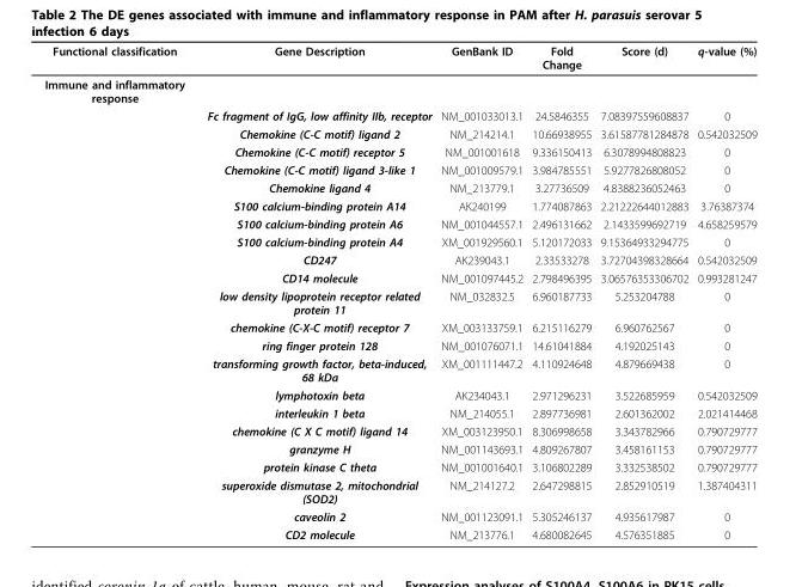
<table><thead><tr><td>Functional classification</td><td>Gene Description</td><td>GenBank ID</td><td>Fold Change</td><td>Score (d)</td><td>q-value (%)</td></tr></thead><tbody><tr><td colspan="6">Immune and inflammatory response</td></tr><tr><td></td><td>Fc fragment of IgG, low affinity IIb, receptor</td><td>NM_001033013.1</td><td>24.5846355</td><td>7.08397559608837</td><td>0</td></tr><tr><td></td><td>Chemokine (C-C motif) ligand 2</td><td>NM_214214.1</td><td>10.66938955</td><td>3.61587781284878</td><td>0.542032509</td></tr><tr><td></td><td>Chemokine (C-C motif) receptor 5</td><td>NM_001001618</td><td>9.336150413</td><td>6.3078994808823</td><td>0</td></tr><tr><td></td><td>Chemokine (C-C motif) ligand 3-like 1</td><td>NM_001009579.1</td><td>3.984785551</td><td>5.9277826808052</td><td>0</td></tr><tr><td></td><td>Chemokine ligand 4</td><td>NM_213779.1</td><td>3.27736509</td><td>4.8388236052463</td><td>0</td></tr><tr><td></td><td>S100 calcium-binding protein A14</td><td>AK240199</td><td>1.774087863</td><td>2.21222644012883</td><td>3.76387374</td></tr><tr><td></td><td>S100 calcium-binding protein A6</td><td>NM_001044557.1</td><td>2.496131662</td><td>2.1433599692719</td><td>4.658259579</td></tr><tr><td></td><td>S100 calcium-binding protein A4</td><td>XM_001929560.1</td><td>5.120172033</td><td>9.15364933294775</td><td>0</td></tr><tr><td></td><td>CD247</td><td>AK239043.1</td><td>2.33533278</td><td>3.72704398328664</td><td>0.542032509</td></tr><tr><td></td><td>CD14 molecule</td><td>NM_001097445.2</td><td>2.798496395</td><td>3.06576353306702</td><td>0.993281247</td></tr><tr><td></td><td>low density lipoprotein receptor related protein 11</td><td>NM_032832.5</td><td>6.960187733</td><td>5.253204788</td><td>0</td></tr><tr><td></td><td>chemokine (C-X-C motif) receptor 7</td><td>XM_003133759.1</td><td>6.215116279</td><td>6.960762567</td><td>0</td></tr><tr><td></td><td>ring finger protein 128</td><td>NM_001076071.1</td><td>14.61041884</td><td>4.192025143</td><td>0</td></tr><tr><td></td><td>transforming growth factor, beta-induced, 68 kDa</td><td>XM_001111447.2</td><td>4.110924648</td><td>4.879669438</td><td>0</td></tr><tr><td></td><td>lymphotoxin beta</td><td>AK234043.1</td><td>2.971296231</td><td>3.522685959</td><td>0.542032509</td></tr><tr><td></td><td>interleukin 1 beta</td><td>NM_214055.1</td><td>2.897736981</td><td>2.601362002</td><td>2.021414468</td></tr><tr><td></td><td>chemokine (C X C motif) ligand 14</td><td>XM_003123950.1</td><td>8.306998658</td><td>3.343782966</td><td>0.790729777</td></tr><tr><td></td><td>granzyme H</td><td>NM_001143693.1</td><td>4.809267807</td><td>3.458161153</td><td>0.790729777</td></tr><tr><td></td><td>protein kinase C theta</td><td>NM_001001640.1</td><td>3.106802289</td><td>3.332538502</td><td>0.790729777</td></tr><tr><td></td><td>superoxide dismutase 2, mitochondrial (SOD2)</td><td>NM_214127.2</td><td>2.647298815</td><td>2.852910519</td><td>1.387404311</td></tr><tr><td></td><td>caveolin 2</td><td>NM_001123091.1</td><td>5.305246137</td><td>4.935617987</td><td>0</td></tr><tr><td></td><td>CD2 molecule</td><td>NM_213776.1</td><td>4.680082645</td><td>4.576351885</td><td>0</td></tr></tbody></table>